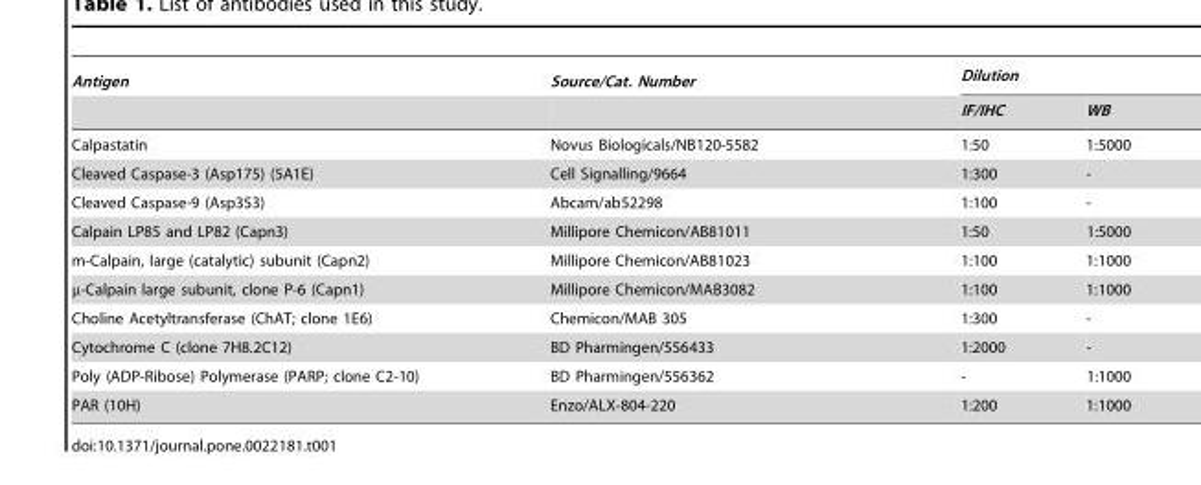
<table><thead><tr><td rowspan="2">Antigen</td><td rowspan="2">Source/Cat. Number</td><td colspan="2">Dilution</td></tr><tr><td>IF/IHC</td><td>WB</td></tr></thead><tbody><tr><td>Calpastatin</td><td>Novus Biologicals/NB120-5582</td><td>1:50</td><td>1:5000</td></tr><tr><td>Cleaved Caspase-3 (Asp175) (5A1E)</td><td>Cell Signalling/9664</td><td>1:300</td><td>-</td></tr><tr><td>Cleaved Caspase-9 (Asp353)</td><td>Abcam/ab52298</td><td>1:100</td><td>-</td></tr><tr><td>Calpain LP85 and LP82 (Capn3)</td><td>Millipore Chemicon/AB81011</td><td>1:50</td><td>1:5000</td></tr><tr><td>m-Calpain, large (catalytic) subunit (Capn2)</td><td>Millipore Chemicon/AB81023</td><td>1:100</td><td>1:1000</td></tr><tr><td>μ-Calpain large subunit, clone P-6 (Capn1)</td><td>Millipore Chemicon/MAB3082</td><td>1:100</td><td>1:1000</td></tr><tr><td>Choline Acetyltransferase (ChAT; clone 1E6)</td><td>Chemicon/MAB 305</td><td>1:300</td><td>-</td></tr><tr><td>Cytochrome C (clone 7H8.2C12)</td><td>BD Pharmingen/556433</td><td>1:2000</td><td>-</td></tr><tr><td>Poly (ADP-Ribose) Polymerase (PARP; clone C2-10)</td><td>BD Pharmingen/556362</td><td>-</td><td>1:1000</td></tr><tr><td>PAR (10H)</td><td>Enzo/ALX-804-220</td><td>1:200</td><td>1:1000</td></tr></tbody></table>